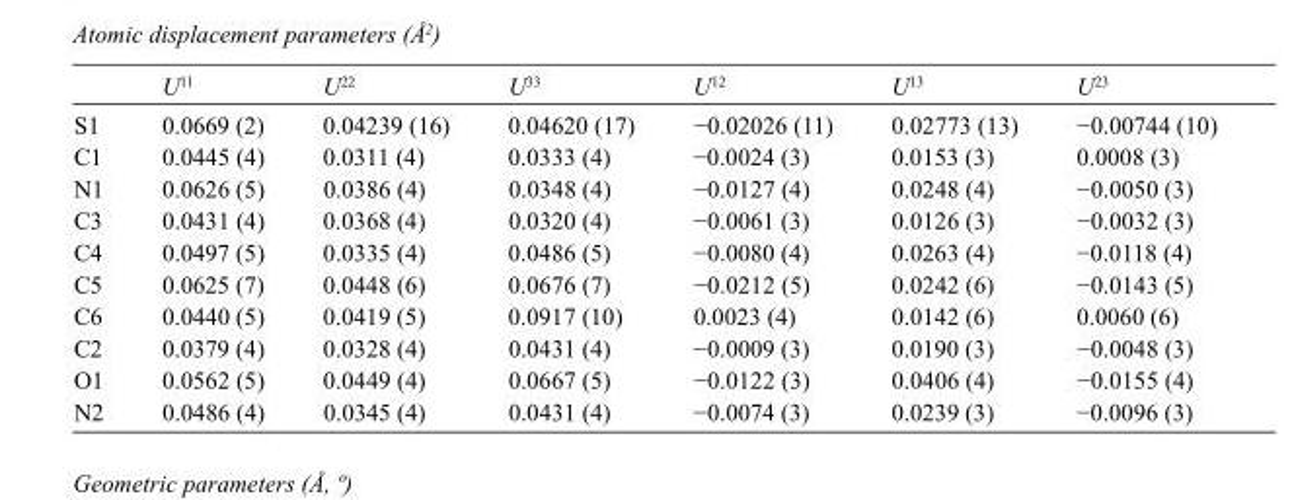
<table><thead><tr><td></td><td>U<sup>11</sup></td><td>U<sup>22</sup></td><td>U<sup>33</sup></td><td>U<sup>12</sup></td><td>U<sup>13</sup></td><td>U<sup>23</sup></td></tr></thead><tbody><tr><td>S1</td><td>0.0669 (2)</td><td>0.04239 (16)</td><td>0.04620 (17)</td><td>−0.02026 (11)</td><td>0.02773 (13)</td><td>−0.00744 (10)</td></tr><tr><td>C1</td><td>0.0445 (4)</td><td>0.0311 (4)</td><td>0.0333 (4)</td><td>−0.0024 (3)</td><td>0.0153 (3)</td><td>0.0008 (3)</td></tr><tr><td>N1</td><td>0.0626 (5)</td><td>0.0386 (4)</td><td>0.0348 (4)</td><td>−0.0127 (4)</td><td>0.0248 (4)</td><td>−0.0050 (3)</td></tr><tr><td>C3</td><td>0.0431 (4)</td><td>0.0368 (4)</td><td>0.0320 (4)</td><td>−0.0061 (3)</td><td>0.0126 (3)</td><td>−0.0032 (3)</td></tr><tr><td>C4</td><td>0.0497 (5)</td><td>0.0335 (4)</td><td>0.0486 (5)</td><td>−0.0080 (4)</td><td>0.0263 (4)</td><td>−0.0118 (4)</td></tr><tr><td>C5</td><td>0.0625 (7)</td><td>0.0448 (6)</td><td>0.0676 (7)</td><td>−0.0212 (5)</td><td>0.0242 (6)</td><td>−0.0143 (5)</td></tr><tr><td>C6</td><td>0.0440 (5)</td><td>0.0419 (5)</td><td>0.0917 (10)</td><td>0.0023 (4)</td><td>0.0142 (6)</td><td>0.0060 (6)</td></tr><tr><td>C2</td><td>0.0379 (4)</td><td>0.0328 (4)</td><td>0.0431 (4)</td><td>−0.0009 (3)</td><td>0.0190 (3)</td><td>−0.0048 (3)</td></tr><tr><td>O1</td><td>0.0562 (5)</td><td>0.0449 (4)</td><td>0.0667 (5)</td><td>−0.0122 (3)</td><td>0.0406 (4)</td><td>−0.0155 (4)</td></tr><tr><td>N2</td><td>0.0486 (4)</td><td>0.0345 (4)</td><td>0.0431 (4)</td><td>−0.0074 (3)</td><td>0.0239 (3)</td><td>−0.0096 (3)</td></tr></tbody></table>